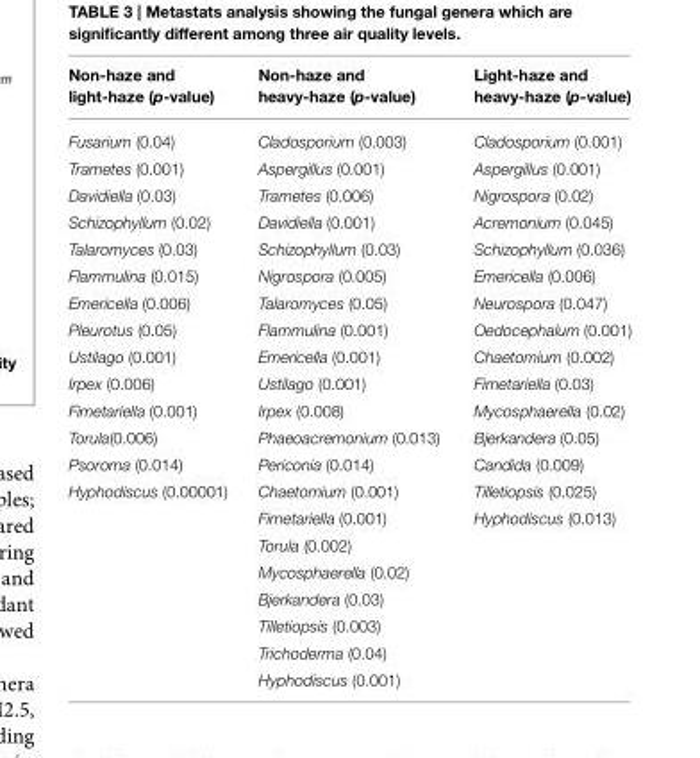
<table><thead><tr><td>Non-haze and light-haze (p-value)</td><td>Non-haze and heavy-haze (p-value)</td><td>Light-haze and heavy-haze (p-value)</td></tr></thead><tbody><tr><td>Fusarium (0.04)</td><td>Cladosporium (0.003)</td><td>Cladosporium (0.001)</td></tr><tr><td>Trametes (0.001)</td><td>Aspergillus (0.001)</td><td>Aspergillus (0.001)</td></tr><tr><td>Davidiella (0.03)</td><td>Trametes (0.006)</td><td>Nigrospora (0.02)</td></tr><tr><td>Schizophyllum (0.02)</td><td>Davidiella (0.001)</td><td>Acremonium (0.045)</td></tr><tr><td>Talaromyces (0.03)</td><td>Schizophyllum (0.03)</td><td>Schizophyllum (0.036)</td></tr><tr><td>Flammulina (0.015)</td><td>Nigrospora (0.005)</td><td>Emericella (0.006)</td></tr><tr><td>Emericella (0.006)</td><td>Talaromyces (0.05)</td><td>Neurospora (0.047)</td></tr><tr><td>Pleurotus (0.05)</td><td>Flammulina (0.001)</td><td>Oedocephalum (0.001)</td></tr><tr><td>Ustilago (0.001)</td><td>Emericella (0.001)</td><td>Chaetomium (0.002)</td></tr><tr><td>Irpex (0.006)</td><td>Ustilago (0.001)</td><td>Fimetariella (0.03)</td></tr><tr><td>Fimetariella (0.001)</td><td>Irpex (0.008)</td><td>Mycosphaerella (0.02)</td></tr><tr><td>Torula(0.006)</td><td>Phaeoacremonium (0.013)</td><td>Bjerkandera (0.05)</td></tr><tr><td>Psoroma (0.014)</td><td>Periconia (0.014)</td><td>Candida (0.009)</td></tr><tr><td rowspan="8">Hyphodiscus (0.00001)</td><td>Chaetomium (0.001)</td><td>Tilletiopsis (0.025)</td></tr><tr><td>Fimetariella (0.001)</td><td>Hyphodiscus (0.013)</td></tr><tr><td>Torula (0.002)</td><td></td></tr><tr><td>Mycosphaerella (0.02)</td><td></td></tr><tr><td>Bjerkandera (0.03)</td><td></td></tr><tr><td>Tilletiopsis (0.003)</td><td></td></tr><tr><td>Trichoderma (0.04)</td><td></td></tr><tr><td>Hyphodiscus (0.001)</td><td></td></tr></tbody></table>